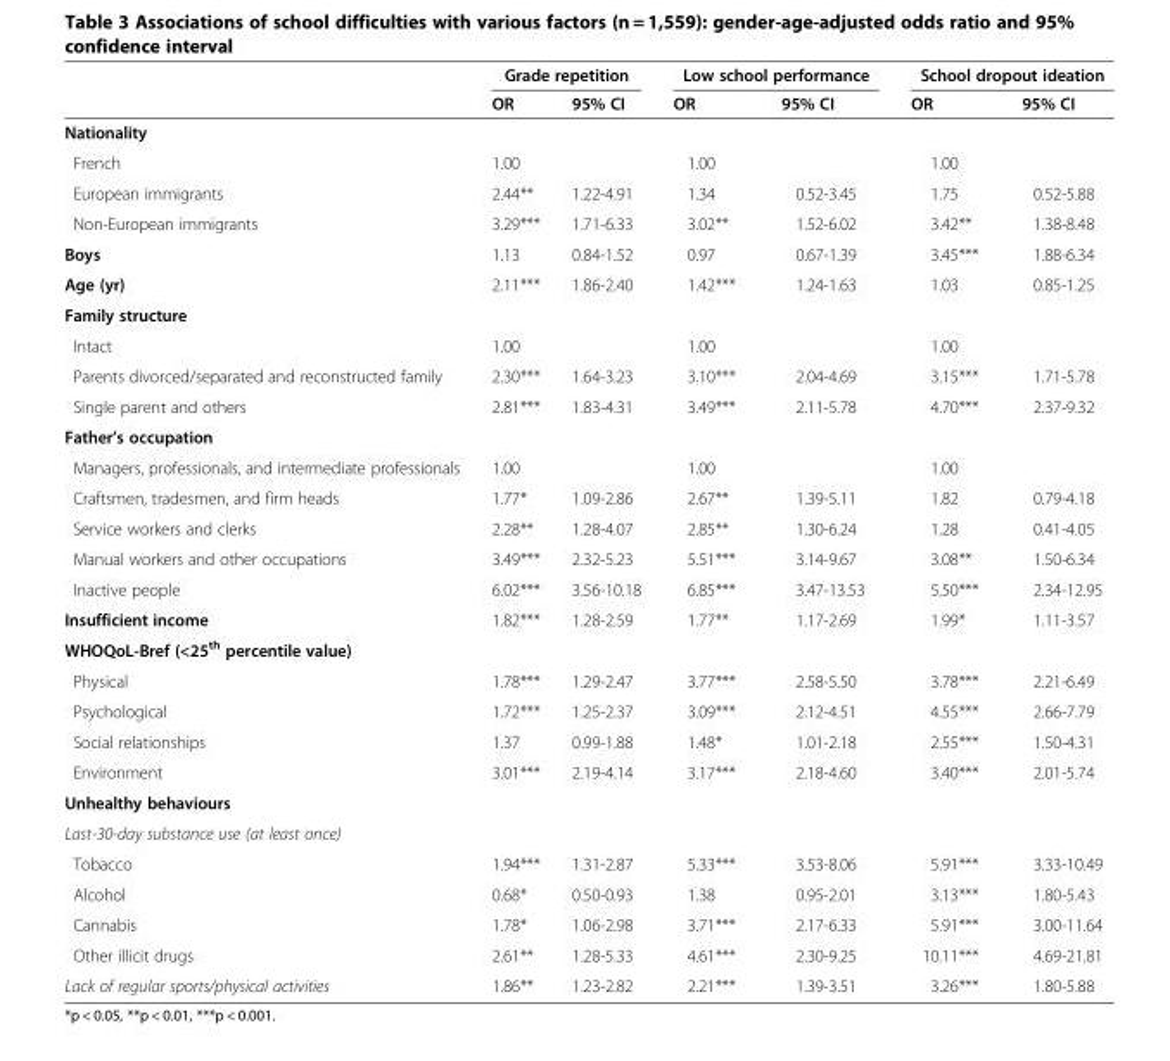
<table><thead><tr><td rowspan="2"></td><td colspan="2">Grade repetition</td><td colspan="2">Low school performance</td><td colspan="2">School dropout ideation</td></tr><tr><td>OR</td><td>95% CI</td><td>OR</td><td>95% CI</td><td>OR</td><td>95% CI</td></tr></thead><tbody><tr><td colspan="7">Nationality</td></tr><tr><td colspan="7">French 1.00 1.00 1.00</td></tr><tr><td>European immigrants</td><td>2.44**</td><td>1.22-4.91</td><td>1.34</td><td>0.52-3.45</td><td>1.75</td><td>0.52-5.88</td></tr><tr><td>Non-European immigrants</td><td>3.29***</td><td>1.71-6.33</td><td>3.02**</td><td>1.52-6.02</td><td>3.42**</td><td>1.38-8.48</td></tr><tr><td>Boys</td><td>1.13</td><td>0.84-1.52</td><td>0.97</td><td>0.67-1.39</td><td>3.45***</td><td>1.88-6.34</td></tr><tr><td>Age (yr)</td><td>2.11***</td><td>1.86-2.40</td><td>1.42***</td><td>1.24-1.63</td><td>1.03</td><td>0.85-1.25</td></tr><tr><td colspan="7">Family structure</td></tr><tr><td colspan="7">Intact 1.00 1.00 1.00</td></tr><tr><td>Parents divorced/separated and reconstructed family</td><td>2.30***</td><td>1.64-3.23</td><td>3.10***</td><td>2.04-4.69</td><td>3.15***</td><td>1.71-5.78</td></tr><tr><td>Single parent and others</td><td>2.81***</td><td>1.83-4.31</td><td>3.49***</td><td>2.11-5.78</td><td>4.70***</td><td>2.37-9.32</td></tr><tr><td colspan="7">Father’s occupation</td></tr><tr><td colspan="7">Managers, professionals, and intermediate professionals 1.00 1.00 1.00</td></tr><tr><td>Craftsmen, tradesmen, and firm heads</td><td>1.77*</td><td>1.09-2.86</td><td>2.67**</td><td>1.39-5.11</td><td>1.82</td><td>0.79-4.18</td></tr><tr><td>Service workers and clerks</td><td>2.28**</td><td>1.28-4.07</td><td>2.85**</td><td>1.30-6.24</td><td>1.28</td><td>0.41-4.05</td></tr><tr><td>Manual workers and other occupations</td><td>3.49***</td><td>2.32-5.23</td><td>5.51***</td><td>3.14-9.67</td><td>3.08**</td><td>1.50-6.34</td></tr><tr><td>Inactive people</td><td>6.02***</td><td>3.56-10.18</td><td>6.85***</td><td>3.47-13.53</td><td>5.50***</td><td>2.34-12.95</td></tr><tr><td>Insufficient income</td><td>1.82***</td><td>1.28-2.59</td><td>1.77**</td><td>1.17-2.69</td><td>1.99*</td><td>1.11-3.57</td></tr><tr><td colspan="7">WHOQoL-Bref (&lt;25<sup>th</sup> percentile value)</td></tr><tr><td>Physical</td><td>1.78***</td><td>1.29-2.47</td><td>3.77***</td><td>2.58-5.50</td><td>3.78***</td><td>2.21-6.49</td></tr><tr><td>Psychological</td><td>1.72***</td><td>1.25-2.37</td><td>3.09***</td><td>2.12-4.51</td><td>4.55***</td><td>2.66-7.79</td></tr><tr><td>Social relationships</td><td>1.37</td><td>0.99-1.88</td><td>1.48*</td><td>1.01-2.18</td><td>2.55***</td><td>1.50-4.31</td></tr><tr><td>Environment</td><td>3.01***</td><td>2.19-4.14</td><td>3.17***</td><td>2.18-4.60</td><td>3.40***</td><td>2.01-5.74</td></tr><tr><td colspan="7">Unhealthy behaviours</td></tr><tr><td colspan="7">Last-30-day substance use (at least once)</td></tr><tr><td>Tobacco</td><td>1.94***</td><td>1.31-2.87</td><td>5.33***</td><td>3.53-8.06</td><td>5.91***</td><td>3.33-10.49</td></tr><tr><td>Alcohol</td><td>0.68*</td><td>0.50-0.93</td><td>1.38</td><td>0.95-2.01</td><td>3.13***</td><td>1.80-5.43</td></tr><tr><td>Cannabis</td><td>1.78*</td><td>1.06-2.98</td><td>3.71***</td><td>2.17-6.33</td><td>5.91***</td><td>3.00-11.64</td></tr><tr><td>Other illicit drugs</td><td>2.61**</td><td>1.28-5.33</td><td>4.61***</td><td>2.30-9.25</td><td>10.11***</td><td>4.69-21.81</td></tr><tr><td>Lack of regular sports/physical activities</td><td>1.86**</td><td>1.23-2.82</td><td>2.21***</td><td>1.39-3.51</td><td>3.26***</td><td>1.80-5.88</td></tr></tbody></table>